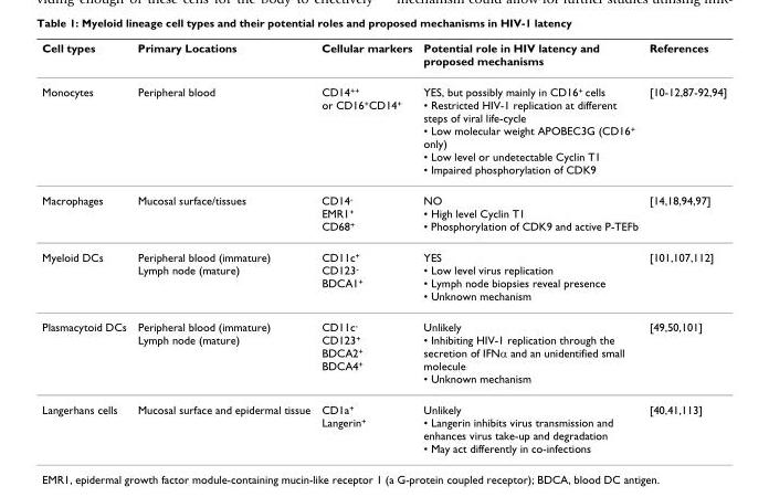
<table><thead><tr><td>Cell types</td><td>Primary Locations</td><td>Cellular markers</td><td>Potential role in HIV latency and proposed mechanisms</td><td>References</td></tr></thead><tbody><tr><td>Monocytes</td><td>Peripheral blood</td><td>CD14<sup>++</sup> or CD16<sup>+</sup>CD14<sup>+</sup></td><td>YES, but possibly mainly in CD16<sup>+</sup> cells • Restricted HIV-1 replication at different steps of viral life-cycle • Low molecular weight APOBEC3G (CD16<sup>+</sup> only) • Low level or undetectable Cyclin T1 • Impaired phosphorylation of CDK9</td><td>[10-12,87-92,94]</td></tr><tr><td>Macrophages</td><td>Mucosal surface/tissues</td><td>CD14<sup>-</sup> EMR1<sup>+</sup> CD68<sup>+</sup></td><td>NO • High level Cyclin T1 • Phosphorylation of CDK9 and active P-TEFb</td><td>[14,18,94,97]</td></tr><tr><td>Myeloid DCs</td><td>Peripheral blood (immature) Lymph node (mature)</td><td>CD11c<sup>+</sup> CD123<sup>-</sup> BDCA1<sup>+</sup></td><td>YES • Low level virus replication • Lymph node biopsies reveal presence • Unknown mechanism</td><td>[101,107,112]</td></tr><tr><td>Plasmacytoid DCs</td><td>Peripheral blood (immature) Lymph node (mature)</td><td>CD11c<sup>-</sup> CD123<sup>+</sup> BDCA2<sup>+</sup> BDCA4<sup>+</sup></td><td>Unlikely • Inhibiting HIV-1 replication through the secretion of IFNα and an unidentified small molecule • Unknown mechanism</td><td>[49,50,101]</td></tr><tr><td>Langerhans cells</td><td>Mucosal surface and epidermal tissue</td><td>CD1a<sup>+</sup> Langerin<sup>+</sup></td><td>Unlikely • Langerin inhibits virus transmission and enhances virus take-up and degradation • May act differently in co-infections</td><td>[40,41,113]</td></tr></tbody></table>